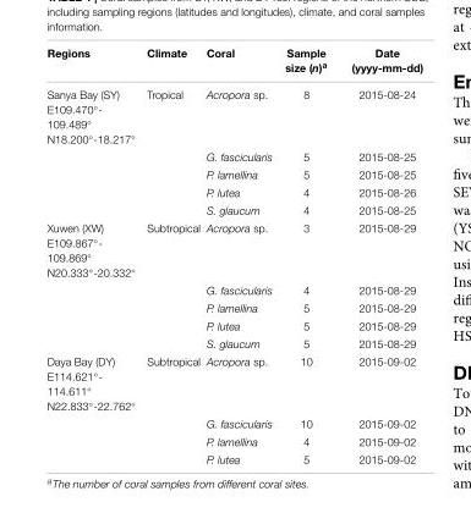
<table><thead><tr><td>Regions</td><td>Climate</td><td>Coral</td><td>Sample size (n)<sup>a</sup></td><td>Date (yyyy-mm-dd)</td></tr></thead><tbody><tr><td rowspan="5">Sanya Bay (SY) E109.470◦- 109.489◦ N18.200◦-18.217◦</td><td>Tropical</td><td>Acropora sp.</td><td>8</td><td>2015-08-24</td></tr><tr><td></td><td>G. fascicularis</td><td>5</td><td>2015-08-25</td></tr><tr><td></td><td>P. lamellina</td><td>5</td><td>2015-08-25</td></tr><tr><td></td><td>P. lutea</td><td>4</td><td>2015-08-26</td></tr><tr><td></td><td>S. glaucum</td><td>4</td><td>2015-08-25</td></tr><tr><td rowspan="5">Xuwen (XW) E109.867◦- 109.869◦ N20.333◦-20.332◦</td><td>Subtropical</td><td>Acropora sp.</td><td>3</td><td>2015-08-29</td></tr><tr><td></td><td>G. fascicularis</td><td>4</td><td>2015-08-29</td></tr><tr><td></td><td>P. lamellina</td><td>5</td><td>2015-08-29</td></tr><tr><td></td><td>P. lutea</td><td>5</td><td>2015-08-29</td></tr><tr><td></td><td>S. glaucum</td><td>5</td><td>2015-08-29</td></tr><tr><td rowspan="4">Daya Bay (DY) E114.621◦- 114.611◦ N22.833◦-22.762◦</td><td>Subtropical</td><td>Acropora sp.</td><td>10</td><td>2015-09-02</td></tr><tr><td></td><td>G. fascicularis</td><td>10</td><td>2015-09-02</td></tr><tr><td></td><td>P. lamellina</td><td>4</td><td>2015-09-02</td></tr><tr><td></td><td>P. lutea</td><td>5</td><td>2015-09-02</td></tr></tbody></table>